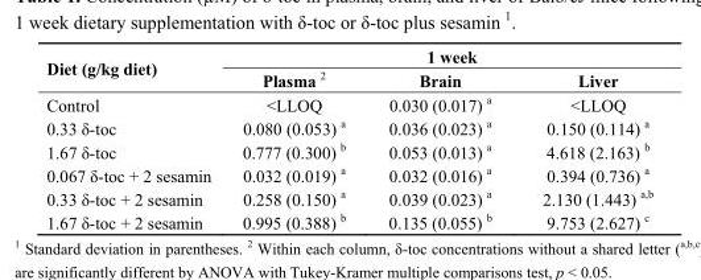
<table><thead><tr><td rowspan="2">Diet (g/kg diet)</td><td colspan="3">1 week</td></tr><tr><td>Plasma <sup>2</sup></td><td>Brain</td><td>Liver</td></tr></thead><tbody><tr><td>Control</td><td>&lt;LLOQ</td><td>0.030 (0.017) <sup>a</sup></td><td>&lt;LLOQ</td></tr><tr><td>0.33 δ-toc</td><td>0.080 (0.053) <sup>a</sup></td><td>0.036 (0.023) <sup>a</sup></td><td>0.150 (0.114) <sup>a</sup></td></tr><tr><td>1.67 δ-toc</td><td>0.777 (0.300) <sup>b</sup></td><td>0.053 (0.013) <sup>a</sup></td><td>4.618 (2.163) <sup>b</sup></td></tr><tr><td>0.067 δ-toc + 2 sesamin</td><td>0.032 (0.019) <sup>a</sup></td><td>0.032 (0.016) <sup>a</sup></td><td>0.394 (0.736) <sup>a</sup></td></tr><tr><td>0.33 δ-toc + 2 sesamin</td><td>0.258 (0.150) <sup>a</sup></td><td>0.039 (0.023) <sup>a</sup></td><td>2.130 (1.443) <sup>a,b</sup></td></tr><tr><td>1.67 δ-toc + 2 sesamin</td><td>0.995 (0.388) <sup>b</sup></td><td>0.135 (0.055) <sup>b</sup></td><td>9.753 (2.627) <sup>c</sup></td></tr></tbody></table>